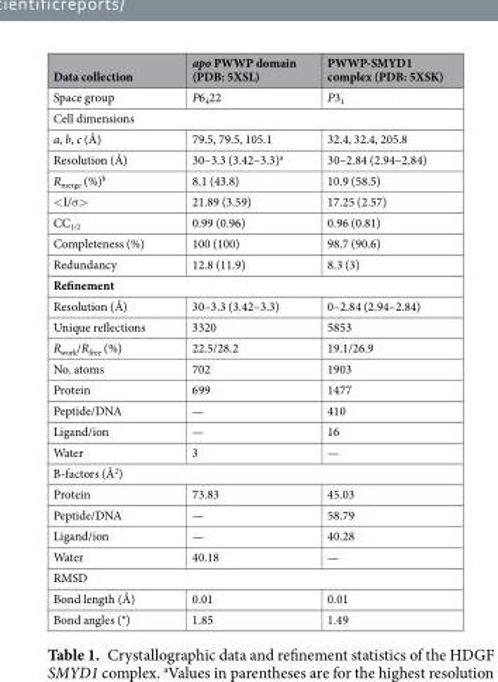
<table><thead><tr><td>Data collection</td><td>apo PWWP domain (PDB: 5XSL)</td><td>PWWP-SMYD1 complex (PDB: 5XSK)</td></tr></thead><tbody><tr><td>Space group</td><td>P6<sub>4</sub>22</td><td>P3<sub>1</sub></td></tr><tr><td colspan="3">Cell dimensions</td></tr><tr><td>a, b, c (Å)</td><td>79.5, 79.5, 105.1</td><td>32.4, 32.4, 205.8</td></tr><tr><td>Resolution (Å)</td><td>30–3.3 (3.42–3.3)<sup>a</sup></td><td>30–2.84 (2.94–2.84)</td></tr><tr><td>R<sub>merge</sub> (%)<sup>b</sup></td><td>8.1 (43.8)</td><td>10.9 (58.5)</td></tr><tr><td>&lt;I/σ&gt;</td><td>21.89 (3.59)</td><td>17.25 (2.57)</td></tr><tr><td>CC<sub>1/2</sub></td><td>0.99 (0.96)</td><td>0.96 (0.81)</td></tr><tr><td>Completeness (%)</td><td>100 (100)</td><td>98.7 (90.6)</td></tr><tr><td>Redundancy</td><td>12.8 (11.9)</td><td>8.3 (3)</td></tr><tr><td colspan="3">Refinement</td></tr><tr><td>Resolution (Å)</td><td>30–3.3 (3.42–3.3)</td><td>0–2.84 (2.94–2.84)</td></tr><tr><td>Unique reflections</td><td>3320</td><td>5853</td></tr><tr><td>R<sub>work</sub>/R<sub>free</sub> (%)</td><td>22.5/28.2</td><td>19.1/26.9</td></tr><tr><td>No. atoms</td><td>702</td><td>1903</td></tr><tr><td>Protein</td><td>699</td><td>1477</td></tr><tr><td>Peptide/DNA</td><td>—</td><td>410</td></tr><tr><td>Ligand/ion</td><td>—</td><td>16</td></tr><tr><td>Water</td><td>3</td><td>—</td></tr><tr><td colspan="3">B-factors (Å<sup>2</sup>)</td></tr><tr><td>Protein</td><td>73.83</td><td>45.03</td></tr><tr><td>Peptide/DNA</td><td>—</td><td>58.79</td></tr><tr><td>Ligand/ion</td><td>—</td><td>40.28</td></tr><tr><td>Water</td><td>40.18</td><td>—</td></tr><tr><td colspan="3">RMSD</td></tr><tr><td>Bond length (Å)</td><td>0.01</td><td>0.01</td></tr><tr><td>Bond angles (°)</td><td>1.85</td><td>1.49</td></tr></tbody></table>